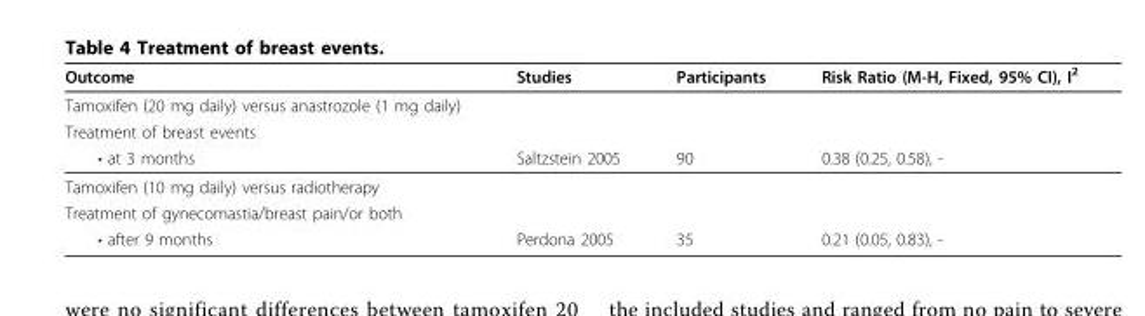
<table><thead><tr><td>Outcome</td><td>Studies</td><td>Participants</td><td>Risk Ratio (M-H, Fixed, 95% CI), I<sup>2</sup></td></tr></thead><tbody><tr><td colspan="4">Tamoxifen (20 mg daily) versus anastrozole (1 mg daily)</td></tr><tr><td colspan="4">Treatment of breast events</td></tr><tr><td>• at 3 months</td><td>Saltzstein 2005</td><td>90</td><td>0.38 (0.25, 0.58), -</td></tr><tr><td colspan="4">Tamoxifen (10 mg daily) versus radiotherapy</td></tr><tr><td colspan="4">Treatment of gynecomastia/breast pain/or both</td></tr><tr><td>• after 9 months</td><td>Perdona 2005</td><td>35</td><td>0.21 (0.05, 0.83), -</td></tr></tbody></table>